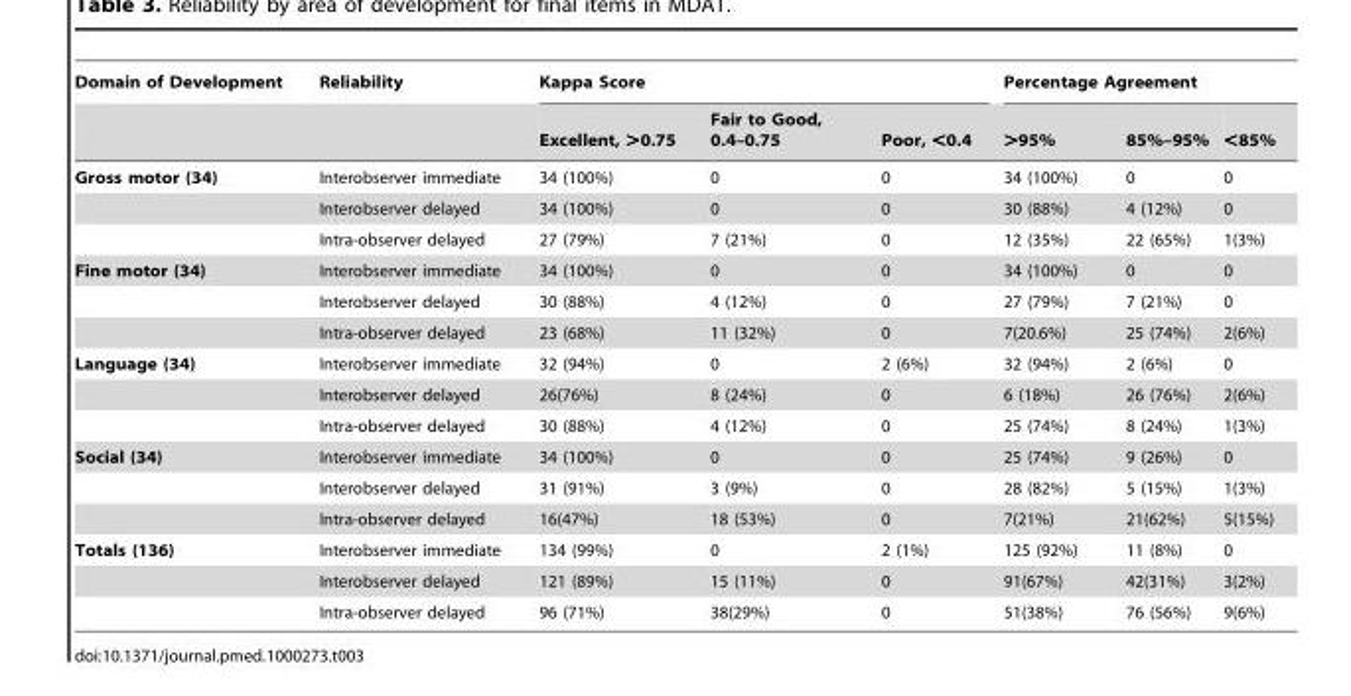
<table><thead><tr><td rowspan="2">Domain of Development</td><td rowspan="2">Reliability</td><td colspan="3">Kappa Score</td><td colspan="3">Percentage Agreement</td></tr><tr><td>Excellent, &gt;0.75</td><td>Fair to Good, 0.4–0.75</td><td>Poor, &lt;0.4</td><td>&gt;95%</td><td>85%–95%</td><td>&lt;85%</td></tr></thead><tbody><tr><td rowspan="3">Gross motor (34)</td><td>Interobserver immediate</td><td>34 (100%)</td><td>0</td><td>0</td><td>34 (100%)</td><td>0</td><td>0</td></tr><tr><td>Interobserver delayed</td><td>34 (100%)</td><td>0</td><td>0</td><td>30 (88%)</td><td>4 (12%)</td><td>0</td></tr><tr><td>Intra-observer delayed</td><td>27 (79%)</td><td>7 (21%)</td><td>0</td><td>12 (35%)</td><td>22 (65%)</td><td>1(3%)</td></tr><tr><td rowspan="3">Fine motor (34)</td><td>Interobserver immediate</td><td>34 (100%)</td><td>0</td><td>0</td><td>34 (100%)</td><td>0</td><td>0</td></tr><tr><td>Interobserver delayed</td><td>30 (88%)</td><td>4 (12%)</td><td>0</td><td>27 (79%)</td><td>7 (21%)</td><td>0</td></tr><tr><td>Intra-observer delayed</td><td>23 (68%)</td><td>11 (32%)</td><td>0</td><td>7(20.6%)</td><td>25 (74%)</td><td>2(6%)</td></tr><tr><td rowspan="3">Language (34)</td><td>Interobserver immediate</td><td>32 (94%)</td><td>0</td><td>2 (6%)</td><td>32 (94%)</td><td>2 (6%)</td><td>0</td></tr><tr><td>Interobserver delayed</td><td>26(76%)</td><td>8 (24%)</td><td>0</td><td>6 (18%)</td><td>26 (76%)</td><td>2(6%)</td></tr><tr><td>Intra-observer delayed</td><td>30 (88%)</td><td>4 (12%)</td><td>0</td><td>25 (74%)</td><td>8 (24%)</td><td>1(3%)</td></tr><tr><td rowspan="3">Social (34)</td><td>Interobserver immediate</td><td>34 (100%)</td><td>0</td><td>0</td><td>25 (74%)</td><td>9 (26%)</td><td>0</td></tr><tr><td>Interobserver delayed</td><td>31 (91%)</td><td>3 (9%)</td><td>0</td><td>28 (82%)</td><td>5 (15%)</td><td>1(3%)</td></tr><tr><td>Intra-observer delayed</td><td>16(47%)</td><td>18 (53%)</td><td>0</td><td>7(21%)</td><td>21(62%)</td><td>5(15%)</td></tr><tr><td rowspan="3">Totals (136)</td><td>Interobserver immediate</td><td>134 (99%)</td><td>0</td><td>2 (1%)</td><td>125 (92%)</td><td>11 (8%)</td><td>0</td></tr><tr><td>Interobserver delayed</td><td>121 (89%)</td><td>15 (11%)</td><td>0</td><td>91(67%)</td><td>42(31%)</td><td>3(2%)</td></tr><tr><td>Intra-observer delayed</td><td>96 (71%)</td><td>38(29%)</td><td>0</td><td>51(38%)</td><td>76 (56%)</td><td>9(6%)</td></tr></tbody></table>